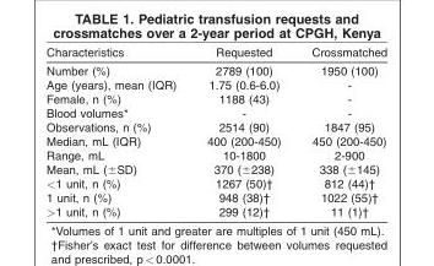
<table><thead><tr><td>Characteristics</td><td>Requested</td><td>Crossmatched</td></tr></thead><tbody><tr><td>Number (%)</td><td>2789 (100)</td><td>1950 (100)</td></tr><tr><td>Age (years), mean (IQR)</td><td>1.75 (0.6-6.0)</td><td>-</td></tr><tr><td>Female, n (%)</td><td>1188 (43)</td><td>-</td></tr><tr><td>Blood volumes*</td><td>-</td><td>-</td></tr><tr><td>Observations, n (%)</td><td>2514 (90)</td><td>1847 (95)</td></tr><tr><td>Median, mL (IQR)</td><td>400 (200-450)</td><td>450 (200-450)</td></tr><tr><td>Range, mL</td><td>10-1800</td><td>2-900</td></tr><tr><td>Mean, mL (±SD)</td><td>370 (±238)</td><td>338 (±145)</td></tr><tr><td>&lt;1 unit, n (%)</td><td>1267 (50)†</td><td>812 (44)†</td></tr><tr><td>1 unit, n (%)</td><td>948 (38)†</td><td>1022 (55)†</td></tr><tr><td>&gt;1 unit, n (%)</td><td>299 (12)†</td><td>11 (1)†</td></tr></tbody></table>